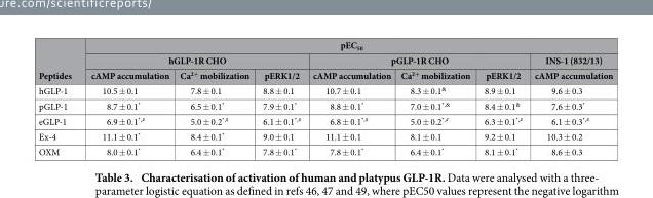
<table><thead><tr><td rowspan="3">Peptides</td><td colspan="7">pEC<sub>50</sub></td></tr><tr><td colspan="3">hGLP-1R CHO</td><td colspan="3">pGLP-1R CHO</td><td rowspan="2">INS-1 (832/13) cAMP accumulation</td></tr><tr><td>cAMP accumulation</td><td>Ca<sup>2+</sup> mobilization</td><td>pERK1/2</td><td>cAMP accumulation</td><td>Ca<sup>2+</sup> mobilization</td><td>pERK1/2</td></tr></thead><tbody><tr><td>hGLP-1</td><td>10.5 ± 0.1</td><td>7.8 ± 0.1</td><td>8.8 ± 0.1</td><td>10.7 ± 0.1</td><td>8.3 ± 0.1<sup>&amp;</sup></td><td>8.9 ± 0.1</td><td>9.6 ± 0.3</td></tr><tr><td>pGLP-1</td><td>8.7 ± 0.1*</td><td>6.5 ± 0.1*</td><td>7.9 ± 0.1*</td><td>8.8 ± 0.1*</td><td>7.0 ± 0.1<sup>*,&amp;</sup></td><td>8.4 ± 0.1<sup>&amp;</sup></td><td>7.6 ± 0.3*</td></tr><tr><td>eGLP-1</td><td>6.9 ± 0.1<sup>*,#</sup></td><td>5.0 ± 0.2<sup>*,#</sup></td><td>6.1 ± 0.1<sup>*,#</sup></td><td>6.8 ± 0.1<sup>*,#</sup></td><td>5.0 ± 0.2<sup>*,#</sup></td><td>6.3 ± 0.1<sup>*,#</sup></td><td>6.1 ± 0.3<sup>*,#</sup></td></tr><tr><td>Ex-4</td><td>11.1 ± 0.1*</td><td>8.4 ± 0.1*</td><td>9.0 ± 0.1</td><td>11.1 ± 0.1</td><td>8.1 ± 0.1</td><td>9.2 ± 0.1</td><td>10.3 ± 0.2</td></tr><tr><td>OXM</td><td>8.0 ± 0.1*</td><td>6.4 ± 0.1*</td><td>7.8 ± 0.1*</td><td>7.8 ± 0.1*</td><td>6.4 ± 0.1*</td><td>8.1 ± 0.1*</td><td>8.6 ± 0.3</td></tr></tbody></table>